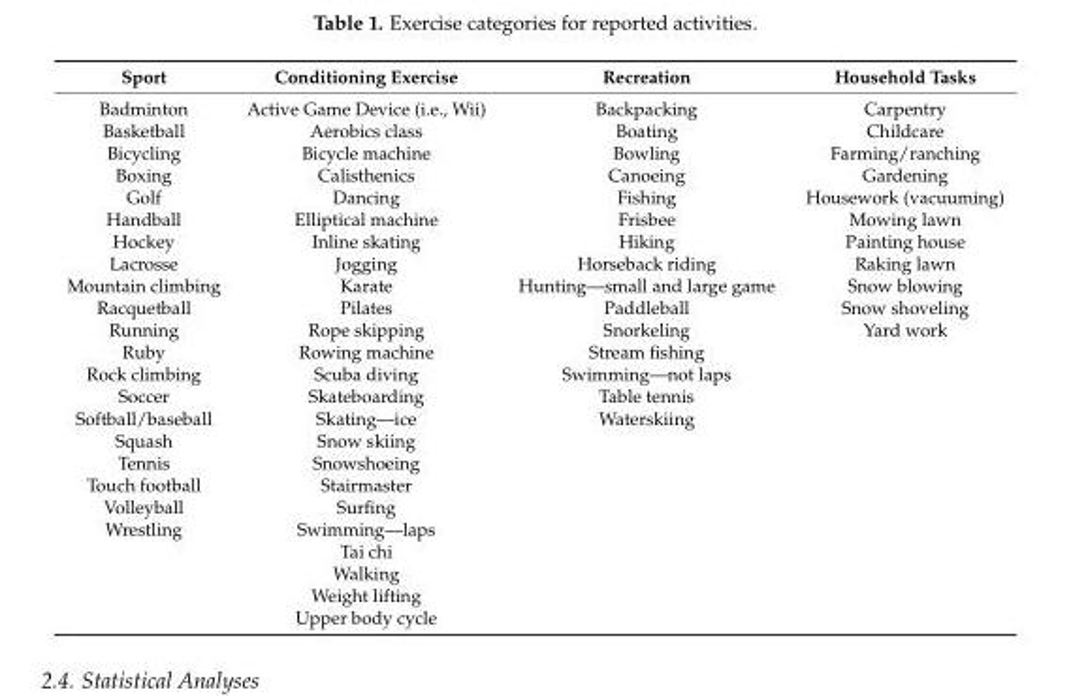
<table><thead><tr><td>Sport</td><td>Conditioning Exercise</td><td>Recreation</td><td>Household Tasks</td></tr></thead><tbody><tr><td>Badminton</td><td>Active Game Device (i.e., Wii)</td><td>Backpacking</td><td>Carpentry</td></tr><tr><td>Basketball</td><td>Aerobics class</td><td>Boating</td><td>Childcare</td></tr><tr><td>Bicycling</td><td>Bicycle machine</td><td>Bowling</td><td>Farming/ranching</td></tr><tr><td>Boxing</td><td>Calisthenics</td><td>Canoeing</td><td>Gardening</td></tr><tr><td>Golf</td><td>Dancing</td><td>Fishing</td><td>Housework (vacuuming)</td></tr><tr><td>Handball</td><td>Elliptical machine</td><td>Frisbee</td><td>Mowing lawn</td></tr><tr><td>Hockey</td><td>Inline skating</td><td>Hiking</td><td>Painting house</td></tr><tr><td>Lacrosse</td><td>Jogging</td><td>Horseback riding</td><td>Raking lawn</td></tr><tr><td>Mountain climbing</td><td>Karate</td><td>Hunting—small and large game</td><td>Snow blowing</td></tr><tr><td>Racquetball</td><td>Pilates</td><td>Paddleball</td><td>Snow shoveling</td></tr><tr><td>Running</td><td>Rope skipping</td><td>Snorkeling</td><td>Yard work</td></tr><tr><td>Ruby</td><td>Rowing machine</td><td>Stream fishing</td><td></td></tr><tr><td>Rock climbing</td><td>Scuba diving</td><td>Swimming—not laps</td><td></td></tr><tr><td>Soccer</td><td>Skateboarding</td><td>Table tennis</td><td></td></tr><tr><td>Softball/baseball</td><td>Skating—ice</td><td>Waterskiing</td><td></td></tr><tr><td>Squash</td><td>Snow skiing</td><td></td><td></td></tr><tr><td>Tennis</td><td>Snowshoeing</td><td></td><td></td></tr><tr><td>Touch football</td><td>Stairmaster</td><td></td><td></td></tr><tr><td>Volleyball</td><td>Surfing</td><td></td><td></td></tr><tr><td rowspan="5">Wrestling</td><td>Swimming—laps</td><td></td><td></td></tr><tr><td>Tai chi</td><td></td><td></td></tr><tr><td>Walking</td><td></td><td></td></tr><tr><td>Weight lifting</td><td></td><td></td></tr><tr><td>Upper body cycle</td><td></td><td></td></tr></tbody></table>